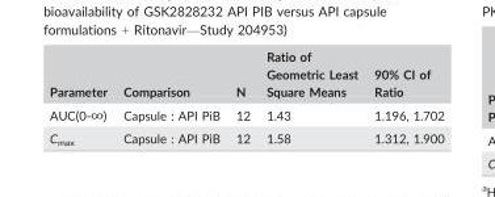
<table><thead><tr><td>Parameter</td><td>Comparison</td><td>N</td><td>Ratio of Geometric Least Square Means</td><td>90% CI of Ratio</td></tr></thead><tbody><tr><td>AUC(0-∞)</td><td>Capsule : API PiB</td><td>12</td><td>1.43</td><td>1.196, 1.702</td></tr><tr><td>C<sub>max</sub></td><td>Capsule : API PiB</td><td>12</td><td>1.58</td><td>1.312, 1.900</td></tr></tbody></table>